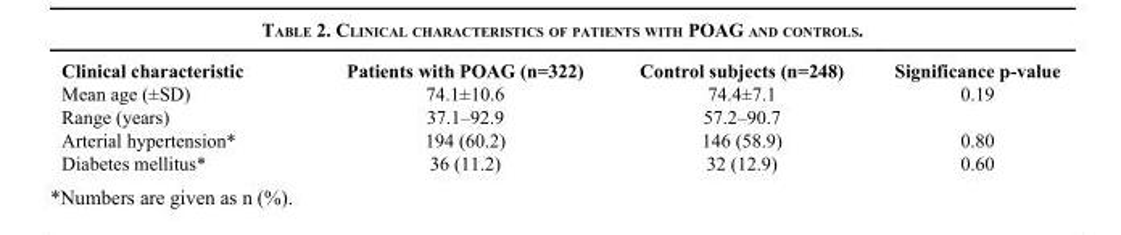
<table><thead><tr><td>Clinical characteristic</td><td>Patients with POAG (n=322)</td><td>Control subjects (n=248)</td><td>Significance p-value</td></tr></thead><tbody><tr><td>Mean age (±SD)</td><td>74.1±10.6</td><td>74.4±7.1</td><td>0.19</td></tr><tr><td>Range (years)</td><td>37.1–92.9</td><td>57.2–90.7</td><td></td></tr><tr><td>Arterial hypertension*</td><td>194 (60.2)</td><td>146 (58.9)</td><td>0.80</td></tr><tr><td>Diabetes mellitus*</td><td>36 (11.2)</td><td>32 (12.9)</td><td>0.60</td></tr></tbody></table>